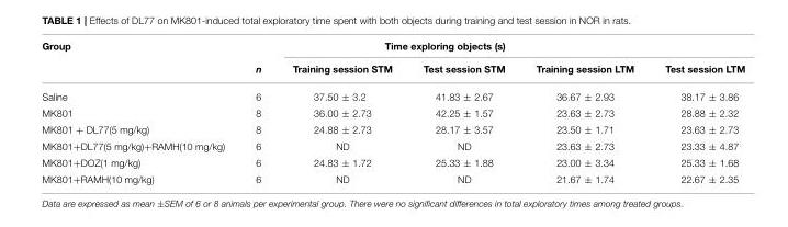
<table><thead><tr><td rowspan="2">Group</td><td rowspan="2">n</td><td colspan="4">Time exploring objects (s)</td></tr><tr><td>Training session STM</td><td>Test session STM</td><td>Training session LTM</td><td>Test session LTM</td></tr></thead><tbody><tr><td>Saline</td><td>6</td><td>37.50 ± 3.2</td><td>41.83 ± 2.67</td><td>36.67 ± 2.93</td><td>38.17 ± 3.86</td></tr><tr><td>MK801</td><td>8</td><td>36.00 ± 2.73</td><td>42.25 ± 1.57</td><td>23.63 ± 2.73</td><td>28.88 ± 2.32</td></tr><tr><td>MK801 + DL77(5 mg/kg)</td><td>8</td><td>24.88 ± 2.73</td><td>28.17 ± 3.57</td><td>23.50 ± 1.71</td><td>23.63 ± 2.73</td></tr><tr><td>MK801+DL77(5 mg/kg)+RAMH(10 mg/kg)</td><td>6</td><td>ND</td><td>ND</td><td>23.63 ± 2.73</td><td>23.33 ± 4.87</td></tr><tr><td>MK801+DOZ(1 mg/kg)</td><td>6</td><td>24.83 ± 1.72</td><td>25.33 ± 1.88</td><td>23.00 ± 3.34</td><td>25.33 ± 1.68</td></tr><tr><td>MK801+RAMH(10 mg/kg)</td><td>6</td><td>ND</td><td>ND</td><td>21.67 ± 1.74</td><td>22.67 ± 2.35</td></tr></tbody></table>